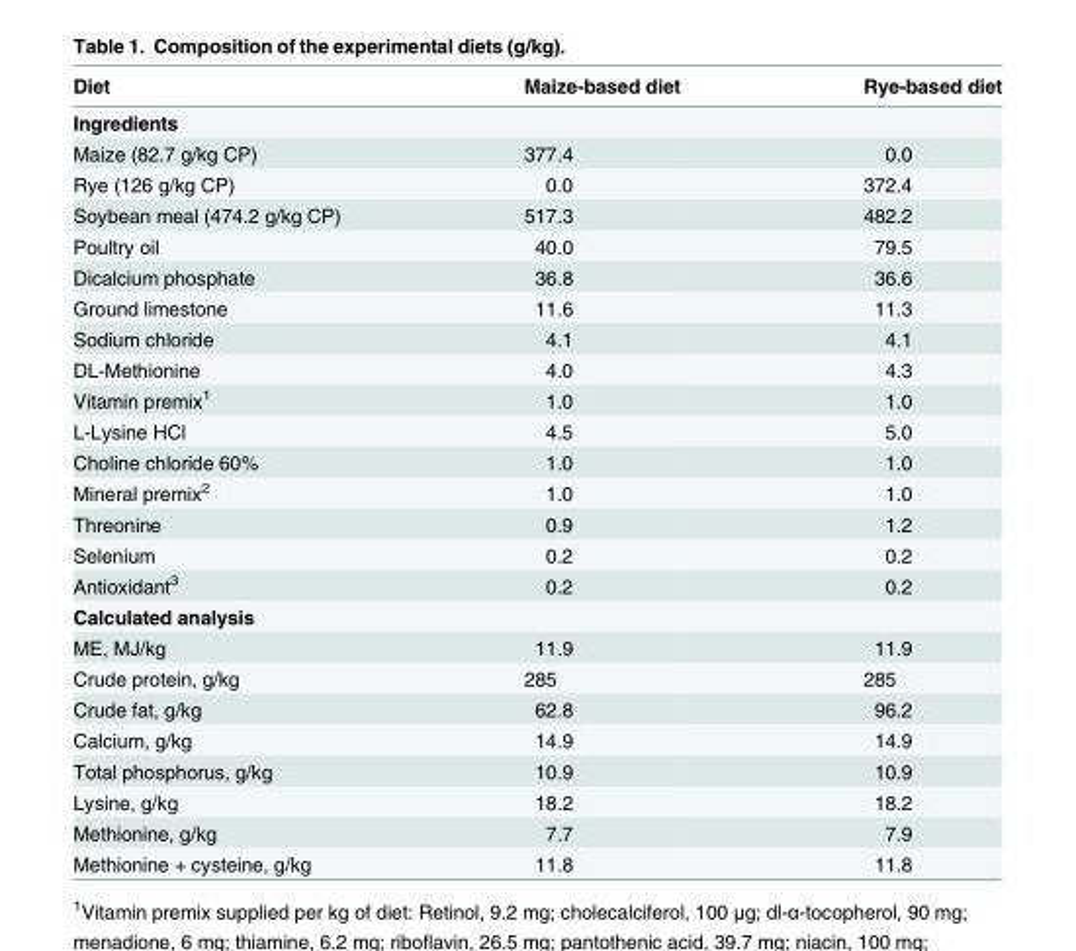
<table><thead><tr><td>Diet</td><td>Maize-based diet</td><td>Rye-based diet</td></tr></thead><tbody><tr><td colspan="3">Ingredients</td></tr><tr><td>Maize (82.7 g/kg CP)</td><td>377.4</td><td>0.0</td></tr><tr><td>Rye (126 g/kg CP)</td><td>0.0</td><td>372.4</td></tr><tr><td>Soybean meal (474.2 g/kg CP)</td><td>517.3</td><td>482.2</td></tr><tr><td>Poultry oil</td><td>40.0</td><td>79.5</td></tr><tr><td>Dicalcium phosphate</td><td>36.8</td><td>36.6</td></tr><tr><td>Ground limestone</td><td>11.6</td><td>11.3</td></tr><tr><td>Sodium chloride</td><td>4.1</td><td>4.1</td></tr><tr><td>DL-Methionine</td><td>4.0</td><td>4.3</td></tr><tr><td>Vitamin premix<sup>1</sup></td><td>1.0</td><td>1.0</td></tr><tr><td>L-Lysine HCl</td><td>4.5</td><td>5.0</td></tr><tr><td>Choline chloride 60%</td><td>1.0</td><td>1.0</td></tr><tr><td>Mineral premix<sup>2</sup></td><td>1.0</td><td>1.0</td></tr><tr><td>Threonine</td><td>0.9</td><td>1.2</td></tr><tr><td>Selenium</td><td>0.2</td><td>0.2</td></tr><tr><td>Antioxidant<sup>3</sup></td><td>0.2</td><td>0.2</td></tr><tr><td colspan="3">Calculated analysis</td></tr><tr><td>ME, MJ/kg</td><td>11.9</td><td>11.9</td></tr><tr><td>Crude protein, g/kg</td><td>285</td><td>285</td></tr><tr><td>Crude fat, g/kg</td><td>62.8</td><td>96.2</td></tr><tr><td>Calcium, g/kg</td><td>14.9</td><td>14.9</td></tr><tr><td>Total phosphorus, g/kg</td><td>10.9</td><td>10.9</td></tr><tr><td>Lysine, g/kg</td><td>18.2</td><td>18.2</td></tr><tr><td>Methionine, g/kg</td><td>7.7</td><td>7.9</td></tr><tr><td>Methionine + cysteine, g/kg</td><td>11.8</td><td>11.8</td></tr></tbody></table>